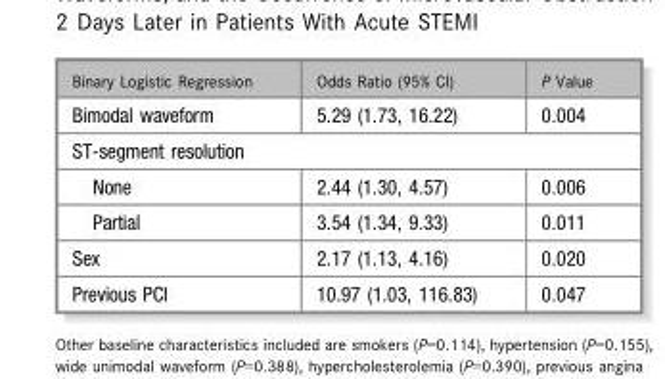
<table><thead><tr><td>Binary Logistic Regression</td><td>Odds Ratio (95% CI)</td><td>P Value</td></tr></thead><tbody><tr><td>Bimodal waveform</td><td>5.29 (1.73, 16.22)</td><td>0.004</td></tr><tr><td colspan="3">ST-segment resolution</td></tr><tr><td>None</td><td>2.44 (1.30, 4.57)</td><td>0.006</td></tr><tr><td>Partial</td><td>3.54 (1.34, 9.33)</td><td>0.011</td></tr><tr><td>Sex</td><td>2.17 (1.13, 4.16)</td><td>0.020</td></tr><tr><td>Previous PCI</td><td>10.97 (1.03, 116.83)</td><td>0.047</td></tr></tbody></table>